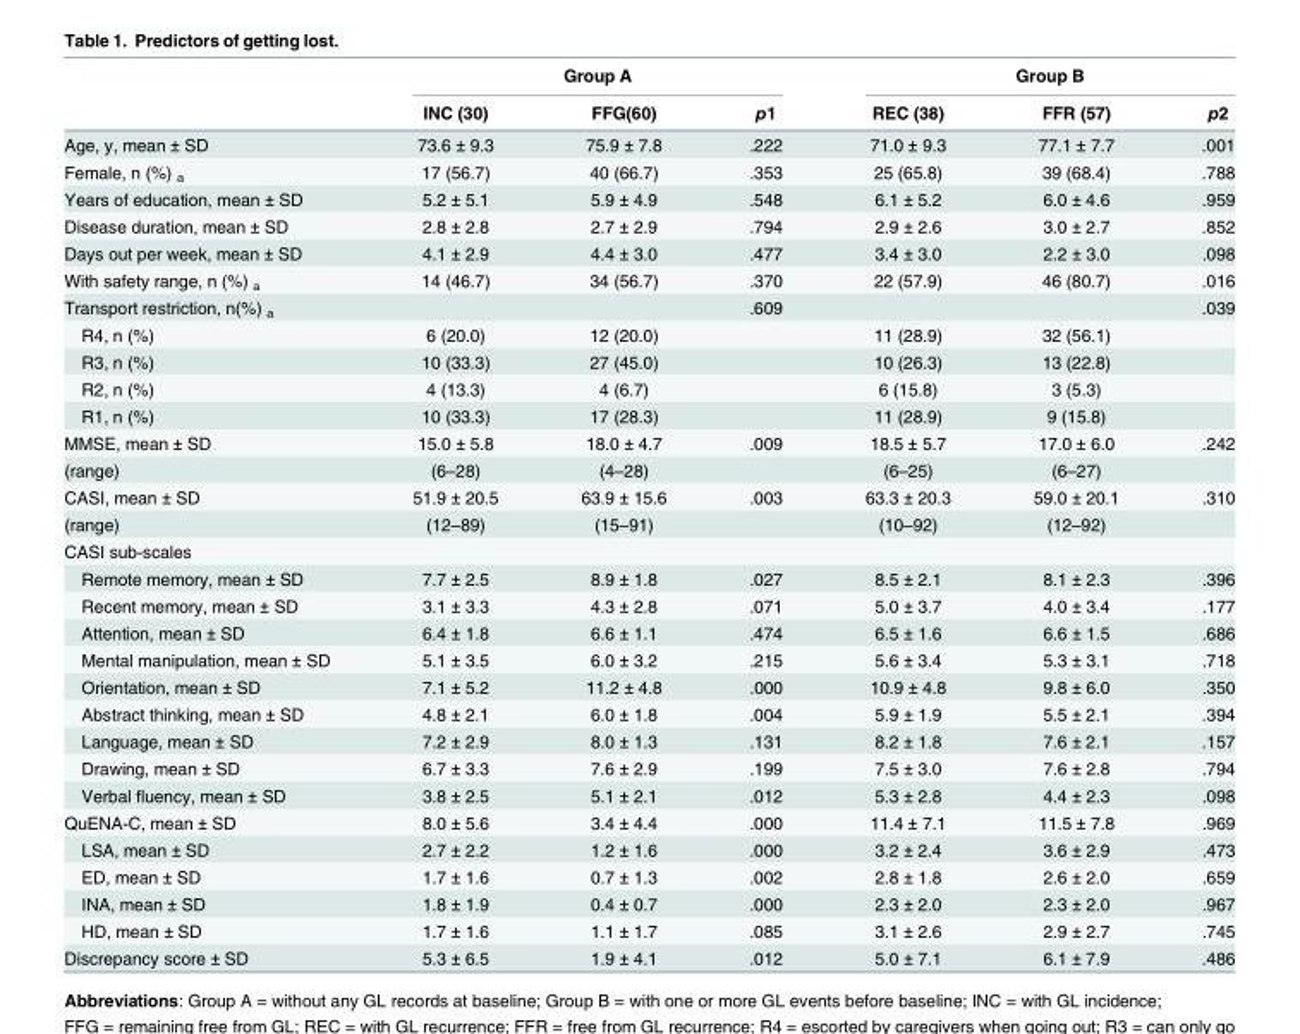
<table><thead><tr><td rowspan="2"></td><td colspan="3">Group A</td><td colspan="3">Group B</td></tr><tr><td>INC (30)</td><td>FFG(60)</td><td>p1</td><td>REC (38)</td><td>FFR (57)</td><td>p2</td></tr></thead><tbody><tr><td>Age, y, mean ± SD</td><td>73.6 ± 9.3</td><td>75.9 ± 7.8</td><td>.222</td><td>71.0 ± 9.3</td><td>77.1 ± 7.7</td><td>.001</td></tr><tr><td>Female, n (%) <sub>a</sub></td><td>17 (56.7)</td><td>40 (66.7)</td><td>.353</td><td>25 (65.8)</td><td>39 (68.4)</td><td>.788</td></tr><tr><td>Years of education, mean ± SD</td><td>5.2 ± 5.1</td><td>5.9 ± 4.9</td><td>.548</td><td>6.1 ± 5.2</td><td>6.0 ± 4.6</td><td>.959</td></tr><tr><td>Disease duration, mean ± SD</td><td>2.8 ± 2.8</td><td>2.7 ± 2.9</td><td>.794</td><td>2.9 ± 2.6</td><td>3.0 ± 2.7</td><td>.852</td></tr><tr><td>Days out per week, mean ± SD</td><td>4.1 ± 2.9</td><td>4.4 ± 3.0</td><td>.477</td><td>3.4 ± 3.0</td><td>2.2 ± 3.0</td><td>.098</td></tr><tr><td>With safety range, n (%) <sub>a</sub></td><td>14 (46.7)</td><td>34 (56.7)</td><td>.370</td><td>22 (57.9)</td><td>46 (80.7)</td><td>.016</td></tr><tr><td>Transport restriction, n(%) <sub>a</sub></td><td></td><td></td><td>.609</td><td></td><td></td><td>.039</td></tr><tr><td>R4, n (%)</td><td>6 (20.0)</td><td>12 (20.0)</td><td></td><td>11 (28.9)</td><td>32 (56.1)</td><td></td></tr><tr><td>R3, n (%)</td><td>10 (33.3)</td><td>27 (45.0)</td><td></td><td>10 (26.3)</td><td>13 (22.8)</td><td></td></tr><tr><td>R2, n (%)</td><td>4 (13.3)</td><td>4 (6.7)</td><td></td><td>6 (15.8)</td><td>3 (5.3)</td><td></td></tr><tr><td>R1, n (%)</td><td>10 (33.3)</td><td>17 (28.3)</td><td></td><td>11 (28.9)</td><td>9 (15.8)</td><td></td></tr><tr><td>MMSE, mean ± SD</td><td>15.0 ± 5.8</td><td>18.0 ± 4.7</td><td>.009</td><td>18.5 ± 5.7</td><td>17.0 ± 6.0</td><td>.242</td></tr><tr><td>(range)</td><td>(6–28)</td><td>(4–28)</td><td></td><td>(6–25)</td><td>(6–27)</td><td></td></tr><tr><td>CASI, mean ± SD</td><td>51.9 ± 20.5</td><td>63.9 ± 15.6</td><td>.003</td><td>63.3 ± 20.3</td><td>59.0 ± 20.1</td><td>.310</td></tr><tr><td>(range)</td><td>(12–89)</td><td>(15–91)</td><td></td><td>(10–92)</td><td>(12–92)</td><td></td></tr><tr><td colspan="7">CASI sub-scales</td></tr><tr><td>Remote memory, mean ± SD</td><td>7.7 ± 2.5</td><td>8.9 ± 1.8</td><td>.027</td><td>8.5 ± 2.1</td><td>8.1 ± 2.3</td><td>.396</td></tr><tr><td>Recent memory, mean ± SD</td><td>3.1 ± 3.3</td><td>4.3 ± 2.8</td><td>.071</td><td>5.0 ± 3.7</td><td>4.0 ± 3.4</td><td>.177</td></tr><tr><td>Attention, mean ± SD</td><td>6.4 ± 1.8</td><td>6.6 ± 1.1</td><td>.474</td><td>6.5 ± 1.6</td><td>6.6 ± 1.5</td><td>.686</td></tr><tr><td>Mental manipulation, mean ± SD</td><td>5.1 ± 3.5</td><td>6.0 ± 3.2</td><td>.215</td><td>5.6 ± 3.4</td><td>5.3 ± 3.1</td><td>.718</td></tr><tr><td>Orientation, mean ± SD</td><td>7.1 ± 5.2</td><td>11.2 ± 4.8</td><td>.000</td><td>10.9 ± 4.8</td><td>9.8 ± 6.0</td><td>.350</td></tr><tr><td>Abstract thinking, mean ± SD</td><td>4.8 ± 2.1</td><td>6.0 ± 1.8</td><td>.004</td><td>5.9 ± 1.9</td><td>5.5 ± 2.1</td><td>.394</td></tr><tr><td>Language, mean ± SD</td><td>7.2 ± 2.9</td><td>8.0 ± 1.3</td><td>.131</td><td>8.2 ± 1.8</td><td>7.6 ± 2.1</td><td>.157</td></tr><tr><td>Drawing, mean ± SD</td><td>6.7 ± 3.3</td><td>7.6 ± 2.9</td><td>.199</td><td>7.5 ± 3.0</td><td>7.6 ± 2.8</td><td>.794</td></tr><tr><td>Verbal fluency, mean ± SD</td><td>3.8 ± 2.5</td><td>5.1 ± 2.1</td><td>.012</td><td>5.3 ± 2.8</td><td>4.4 ± 2.3</td><td>.098</td></tr><tr><td>QuENA-C, mean ± SD</td><td>8.0 ± 5.6</td><td>3.4 ± 4.4</td><td>.000</td><td>11.4 ± 7.1</td><td>11.5 ± 7.8</td><td>.969</td></tr><tr><td>LSA, mean ± SD</td><td>2.7 ± 2.2</td><td>1.2 ± 1.6</td><td>.000</td><td>3.2 ± 2.4</td><td>3.6 ± 2.9</td><td>.473</td></tr><tr><td>ED, mean ± SD</td><td>1.7 ± 1.6</td><td>0.7 ± 1.3</td><td>.002</td><td>2.8 ± 1.8</td><td>2.6 ± 2.0</td><td>.659</td></tr><tr><td>INA, mean ± SD</td><td>1.8 ± 1.9</td><td>0.4 ± 0.7</td><td>.000</td><td>2.3 ± 2.0</td><td>2.3 ± 2.0</td><td>.967</td></tr><tr><td>HD, mean ± SD</td><td>1.7 ± 1.6</td><td>1.1 ± 1.7</td><td>.085</td><td>3.1 ± 2.6</td><td>2.9 ± 2.7</td><td>.745</td></tr><tr><td>Discrepancy score ± SD</td><td>5.3 ± 6.5</td><td>1.9 ± 4.1</td><td>.012</td><td>5.0 ± 7.1</td><td>6.1 ± 7.9</td><td>.486</td></tr></tbody></table>